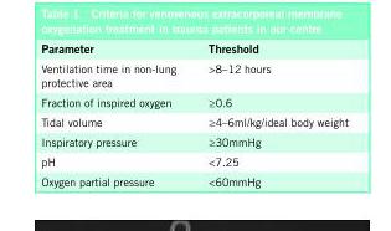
<table><thead><tr><td>parameter</td><td>threshold</td></tr></thead><tbody><tr><td>Ventilation time in non-lung protective area</td><td>&gt;8–12 hours</td></tr><tr><td>Fraction of inspired oxygen</td><td>≥0.6</td></tr><tr><td>Tidal volume</td><td>≥4–6ml/kg/ideal body weight</td></tr><tr><td>Inspiratory pressure</td><td>≥30mmHg</td></tr><tr><td>pH</td><td>&lt;7.25</td></tr><tr><td>Oxygen partial pressure</td><td>&lt;60mmHg</td></tr></tbody></table>